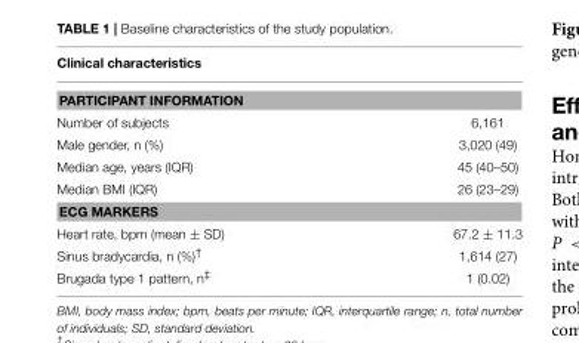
<table><thead><tr><td>Clinical characteristics</td><td></td></tr></thead><tbody><tr><td colspan="2">PARTICIPANT INFORMATION</td></tr><tr><td>Number of subjects</td><td>6,161</td></tr><tr><td>Male gender, n (%)</td><td>3,020 (49)</td></tr><tr><td>Median age, years (IQR)</td><td>45 (40–50)</td></tr><tr><td>Median BMI (IQR)</td><td>26 (23–29)</td></tr><tr><td colspan="2">ECG MARKERS</td></tr><tr><td>Heart rate, bpm (mean ± SD)</td><td>67.2 ± 11.3</td></tr><tr><td>Sinus bradycardia, n (%)<sup>†</sup></td><td>1,614 (27)</td></tr><tr><td>Brugada type 1 pattern, n<sup>‡</sup></td><td>1 (0.02)</td></tr></tbody></table>